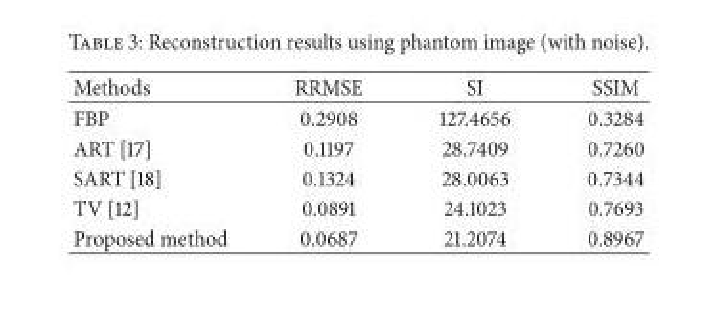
<table><thead><tr><td>Methods</td><td>RRMSE</td><td>SI</td><td>SSIM</td></tr></thead><tbody><tr><td>FBP</td><td>0.2908</td><td>127.4656</td><td>0.3284</td></tr><tr><td>ART [17]</td><td>0.1197</td><td>28.7409</td><td>0.7260</td></tr><tr><td>SART [18]</td><td>0.1324</td><td>28.0063</td><td>0.7344</td></tr><tr><td>TV [12]</td><td>0.0891</td><td>24.1023</td><td>0.7693</td></tr><tr><td>Proposed method</td><td>0.0687</td><td>21.2074</td><td>0.8967</td></tr></tbody></table>